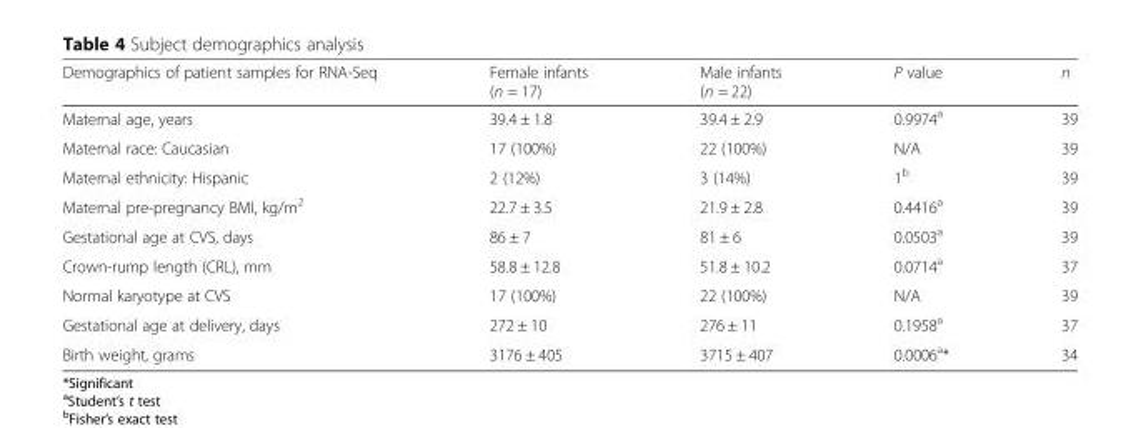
<table><thead><tr><td>Demographics of patient samples for RNA-Seq</td><td>Female infants (n = 17)</td><td>Male infants (n = 22)</td><td>P value</td><td>n</td></tr></thead><tbody><tr><td>Maternal age, years</td><td>39.4 ± 1.8</td><td>39.4 ± 2.9</td><td>0.9974<sup>a</sup></td><td>39</td></tr><tr><td>Maternal race: Caucasian</td><td>17 (100%)</td><td>22 (100%)</td><td>N/A</td><td>39</td></tr><tr><td>Maternal ethnicity: Hispanic</td><td>2 (12%)</td><td>3 (14%)</td><td>1<sup>b</sup></td><td>39</td></tr><tr><td>Maternal pre-pregnancy BMI, kg/m<sup>2</sup></td><td>22.7 ± 3.5</td><td>21.9 ± 2.8</td><td>0.4416<sup>a</sup></td><td>39</td></tr><tr><td>Gestational age at CVS, days</td><td>86 ± 7</td><td>81 ± 6</td><td>0.0503<sup>a</sup></td><td>39</td></tr><tr><td>Crown-rump length (CRL), mm</td><td>58.8 ± 12.8</td><td>51.8 ± 10.2</td><td>0.0714<sup>a</sup></td><td>37</td></tr><tr><td>Normal karyotype at CVS</td><td>17 (100%)</td><td>22 (100%)</td><td>N/A</td><td>39</td></tr><tr><td>Gestational age at delivery, days</td><td>272 ± 10</td><td>276 ± 11</td><td>0.1958<sup>a</sup></td><td>37</td></tr><tr><td>Birth weight, grams</td><td>3176 ± 405</td><td>3715 ± 407</td><td>0.0006<sup>a</sup>*</td><td>34</td></tr></tbody></table>